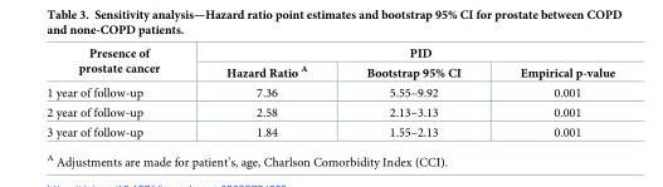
<table><thead><tr><td rowspan="2">Presence of prostate cancer</td><td colspan="3">PID</td></tr><tr><td>Hazard Ratio <sup>A</sup></td><td>Bootstrap 95% CI</td><td>Empirical p-value</td></tr></thead><tbody><tr><td>1 year of follow-up</td><td>7.36</td><td>5.55–9.92</td><td>0.001</td></tr><tr><td>2 year of follow-up</td><td>2.58</td><td>2.13–3.13</td><td>0.001</td></tr><tr><td>3 year of follow-up</td><td>1.84</td><td>1.55–2.13</td><td>0.001</td></tr></tbody></table>